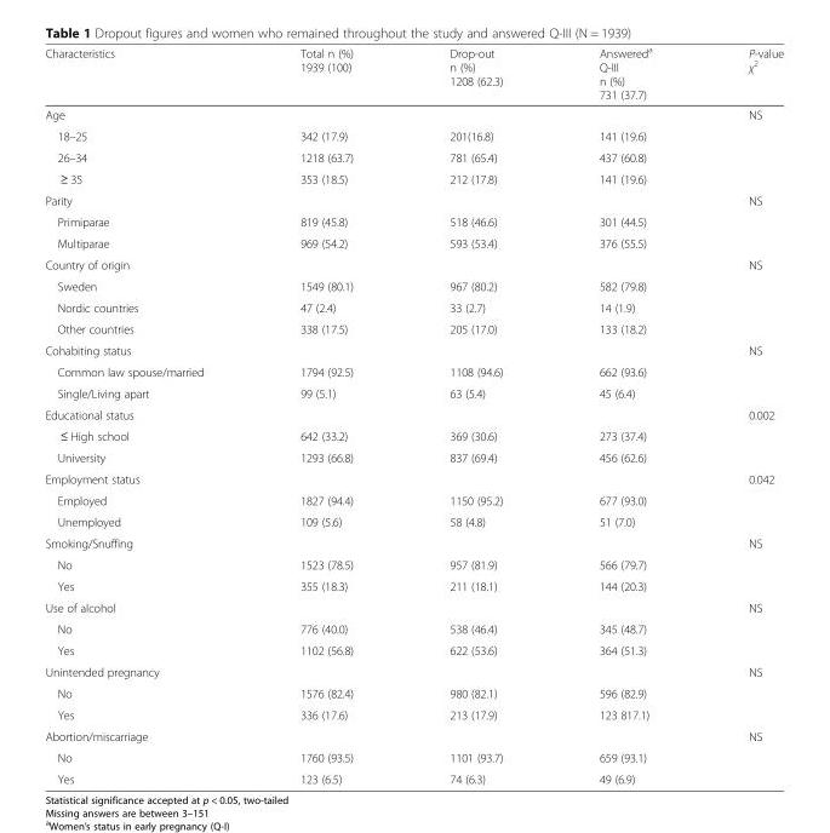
<table><thead><tr><td>Characteristics</td><td>Total n (%) 1939 (100)</td><td>Drop-out n (%) 1208 (62.3)</td><td>Answered<sup>a</sup> Q-III n (%) 731 (37.7)</td><td>P-value χ<sup>2</sup></td></tr></thead><tbody><tr><td colspan="4">Age</td><td rowspan="4">NS</td></tr><tr><td>18–25</td><td>342 (17.9)</td><td>201(16.8)</td><td>141 (19.6)</td></tr><tr><td>26–34</td><td>1218 (63.7)</td><td>781 (65.4)</td><td>437 (60.8)</td></tr><tr><td>≥ 35</td><td>353 (18.5)</td><td>212 (17.8)</td><td>141 (19.6)</td></tr><tr><td colspan="4">Parity</td><td rowspan="3">NS</td></tr><tr><td>Primiparae</td><td>819 (45.8)</td><td>518 (46.6)</td><td>301 (44.5)</td></tr><tr><td>Multiparae</td><td>969 (54.2)</td><td>593 (53.4)</td><td>376 (55.5)</td></tr><tr><td colspan="4">Country of origin</td><td rowspan="4">NS</td></tr><tr><td>Sweden</td><td>1549 (80.1)</td><td>967 (80.2)</td><td>582 (79.8)</td></tr><tr><td>Nordic countries</td><td>47 (2.4)</td><td>33 (2.7)</td><td>14 (1.9)</td></tr><tr><td>Other countries</td><td>338 (17.5)</td><td>205 (17.0)</td><td>133 (18.2)</td></tr><tr><td colspan="4">Cohabiting status</td><td rowspan="3">NS</td></tr><tr><td>Common law spouse/married</td><td>1794 (92.5)</td><td>1108 (94.6)</td><td>662 (93.6)</td></tr><tr><td>Single/Living apart</td><td>99 (5.1)</td><td>63 (5.4)</td><td>45 (6.4)</td></tr><tr><td colspan="4">Educational status</td><td rowspan="3">0.002</td></tr><tr><td>≤ High school</td><td>642 (33.2)</td><td>369 (30.6)</td><td>273 (37.4)</td></tr><tr><td>University</td><td>1293 (66.8)</td><td>837 (69.4)</td><td>456 (62.6)</td></tr><tr><td colspan="4">Employment status</td><td rowspan="3">0.042</td></tr><tr><td>Employed</td><td>1827 (94.4)</td><td>1150 (95.2)</td><td>677 (93.0)</td></tr><tr><td>Unemployed</td><td>109 (5.6)</td><td>58 (4.8)</td><td>51 (7.0)</td></tr><tr><td colspan="4">Smoking/Snuffing</td><td rowspan="3">NS</td></tr><tr><td>No</td><td>1523 (78.5)</td><td>957 (81.9)</td><td>566 (79.7)</td></tr><tr><td>Yes</td><td>355 (18.3)</td><td>211 (18.1)</td><td>144 (20.3)</td></tr><tr><td colspan="4">Use of alcohol</td><td rowspan="3">NS</td></tr><tr><td>No</td><td>776 (40.0)</td><td>538 (46.4)</td><td>345 (48.7)</td></tr><tr><td>Yes</td><td>1102 (56.8)</td><td>622 (53.6)</td><td>364 (51.3)</td></tr><tr><td colspan="4">Unintended pregnancy</td><td rowspan="3">NS</td></tr><tr><td>No</td><td>1576 (82.4)</td><td>980 (82.1)</td><td>596 (82.9)</td></tr><tr><td>Yes</td><td>336 (17.6)</td><td>213 (17.9)</td><td>123 817.1)</td></tr><tr><td colspan="4">Abortion/miscarriage</td><td rowspan="3">NS</td></tr><tr><td>No</td><td>1760 (93.5)</td><td>1101 (93.7)</td><td>659 (93.1)</td></tr><tr><td>Yes</td><td>123 (6.5)</td><td>74 (6.3)</td><td>49 (6.9)</td></tr></tbody></table>